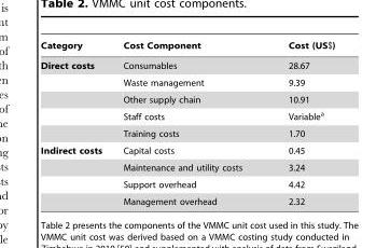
<table><thead><tr><td>Category</td><td>Cost Component</td><td>Cost (US$)</td></tr></thead><tbody><tr><td rowspan="5">Direct costs</td><td>Consumables</td><td>28.67</td></tr><tr><td>Waste management</td><td>9.39</td></tr><tr><td>Other supply chain</td><td>10.91</td></tr><tr><td>Staff costs</td><td>Variable<sup>a</sup></td></tr><tr><td>Training costs</td><td>1.70</td></tr><tr><td rowspan="4">Indirect costs</td><td>Capital costs</td><td>0.45</td></tr><tr><td>Maintenance and utility costs</td><td>3.24</td></tr><tr><td>Support overhead</td><td>4.42</td></tr><tr><td>Management overhead</td><td>2.32</td></tr></tbody></table>